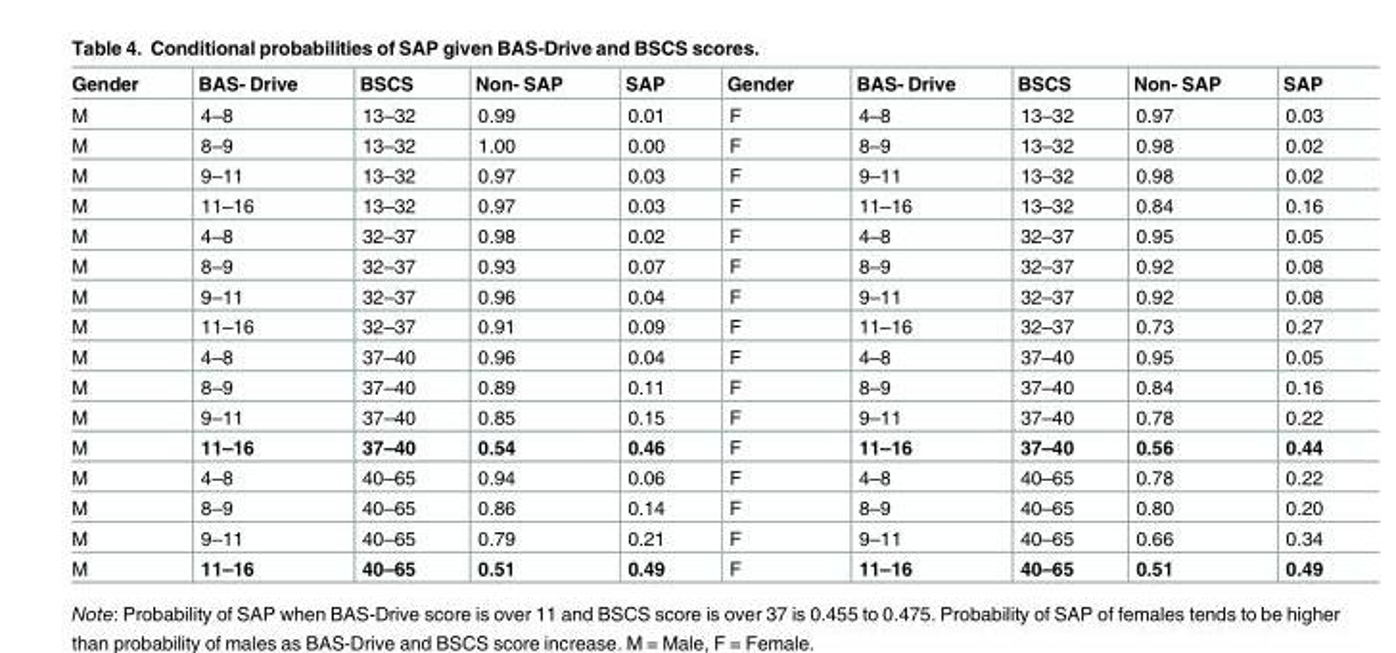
<table><thead><tr><td>Gender</td><td>BAS- Drive</td><td>BSCS</td><td>Non- SAP</td><td>SAP</td><td>Gender</td><td>BAS- Drive</td><td>BSCS</td><td>Non- SAP</td><td>SAP</td></tr></thead><tbody><tr><td>M</td><td>4–8</td><td>13–32</td><td>0.99</td><td>0.01</td><td>F</td><td>4–8</td><td>13–32</td><td>0.97</td><td>0.03</td></tr><tr><td>M</td><td>8–9</td><td>13–32</td><td>1.00</td><td>0.00</td><td>F</td><td>8–9</td><td>13–32</td><td>0.98</td><td>0.02</td></tr><tr><td>M</td><td>9–11</td><td>13–32</td><td>0.97</td><td>0.03</td><td>F</td><td>9–11</td><td>13–32</td><td>0.98</td><td>0.02</td></tr><tr><td>M</td><td>11–16</td><td>13–32</td><td>0.97</td><td>0.03</td><td>F</td><td>11–16</td><td>13–32</td><td>0.84</td><td>0.16</td></tr><tr><td>M</td><td>4–8</td><td>32–37</td><td>0.98</td><td>0.02</td><td>F</td><td>4–8</td><td>32–37</td><td>0.95</td><td>0.05</td></tr><tr><td>M</td><td>8–9</td><td>32–37</td><td>0.93</td><td>0.07</td><td>F</td><td>8–9</td><td>32–37</td><td>0.92</td><td>0.08</td></tr><tr><td>M</td><td>9–11</td><td>32–37</td><td>0.96</td><td>0.04</td><td>F</td><td>9–11</td><td>32–37</td><td>0.92</td><td>0.08</td></tr><tr><td>M</td><td>11–16</td><td>32–37</td><td>0.91</td><td>0.09</td><td>F</td><td>11–16</td><td>32–37</td><td>0.73</td><td>0.27</td></tr><tr><td>M</td><td>4–8</td><td>37–40</td><td>0.96</td><td>0.04</td><td>F</td><td>4–8</td><td>37–40</td><td>0.95</td><td>0.05</td></tr><tr><td>M</td><td>8–9</td><td>37–40</td><td>0.89</td><td>0.11</td><td>F</td><td>8–9</td><td>37–40</td><td>0.84</td><td>0.16</td></tr><tr><td>M</td><td>9–11</td><td>37–40</td><td>0.85</td><td>0.15</td><td>F</td><td>9–11</td><td>37–40</td><td>0.78</td><td>0.22</td></tr><tr><td>M</td><td>11–16</td><td>37–40</td><td>0.54</td><td>0.46</td><td>F</td><td>11–16</td><td>37–40</td><td>0.56</td><td>0.44</td></tr><tr><td>M</td><td>4–8</td><td>40–65</td><td>0.94</td><td>0.06</td><td>F</td><td>4–8</td><td>40–65</td><td>0.78</td><td>0.22</td></tr><tr><td>M</td><td>8–9</td><td>40–65</td><td>0.86</td><td>0.14</td><td>F</td><td>8–9</td><td>40–65</td><td>0.80</td><td>0.20</td></tr><tr><td>M</td><td>9–11</td><td>40–65</td><td>0.79</td><td>0.21</td><td>F</td><td>9–11</td><td>40–65</td><td>0.66</td><td>0.34</td></tr><tr><td>M</td><td>11–16</td><td>40–65</td><td>0.51</td><td>0.49</td><td>F</td><td>11–16</td><td>40–65</td><td>0.51</td><td>0.49</td></tr></tbody></table>